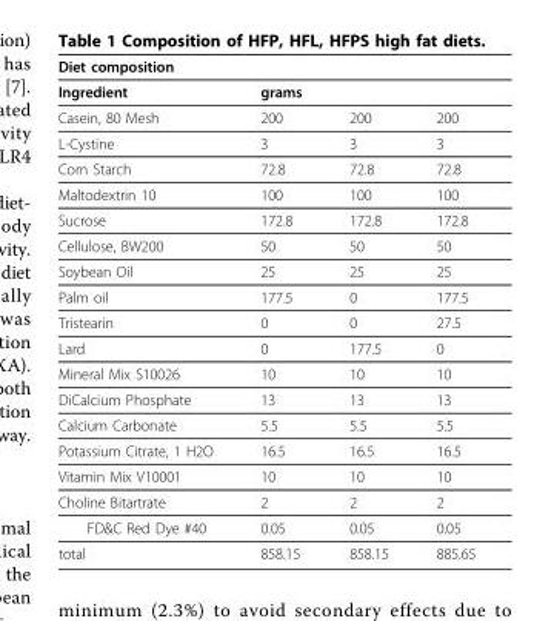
<table><thead><tr><td>Diet composition</td><td></td><td></td><td></td></tr></thead><tbody><tr><td>Ingredient</td><td>grams</td><td></td><td></td></tr><tr><td>Casein, 80 Mesh</td><td>200</td><td>200</td><td>200</td></tr><tr><td>L-Cystine</td><td>3</td><td>3</td><td>3</td></tr><tr><td>Corn Starch</td><td>72.8</td><td>72.8</td><td>72.8</td></tr><tr><td>Maltodextrin 10</td><td>100</td><td>100</td><td>100</td></tr><tr><td>Sucrose</td><td>172.8</td><td>172.8</td><td>172.8</td></tr><tr><td>Cellulose, BW200</td><td>50</td><td>50</td><td>50</td></tr><tr><td>Soybean Oil</td><td>25</td><td>25</td><td>25</td></tr><tr><td>Palm oil</td><td>177.5</td><td>0</td><td>177.5</td></tr><tr><td>Tristearin</td><td>0</td><td>0</td><td>27.5</td></tr><tr><td>Lard</td><td>0</td><td>177.5</td><td>0</td></tr><tr><td>Mineral Mix S10026</td><td>10</td><td>10</td><td>10</td></tr><tr><td>DiCalcium Phosphate</td><td>13</td><td>13</td><td>13</td></tr><tr><td>Calcium Carbonate</td><td>5.5</td><td>5.5</td><td>5.5</td></tr><tr><td>Potassium Citrate, 1 H2O</td><td>16.5</td><td>16.5</td><td>16.5</td></tr><tr><td>Vitamin Mix V10001</td><td>10</td><td>10</td><td>10</td></tr><tr><td>Choline Bitartrate</td><td>2</td><td>2</td><td>2</td></tr><tr><td>FD&amp;C Red Dye #40</td><td>0.05</td><td>0.05</td><td>0.05</td></tr><tr><td>total</td><td>858.15</td><td>858.15</td><td>885.65</td></tr></tbody></table>